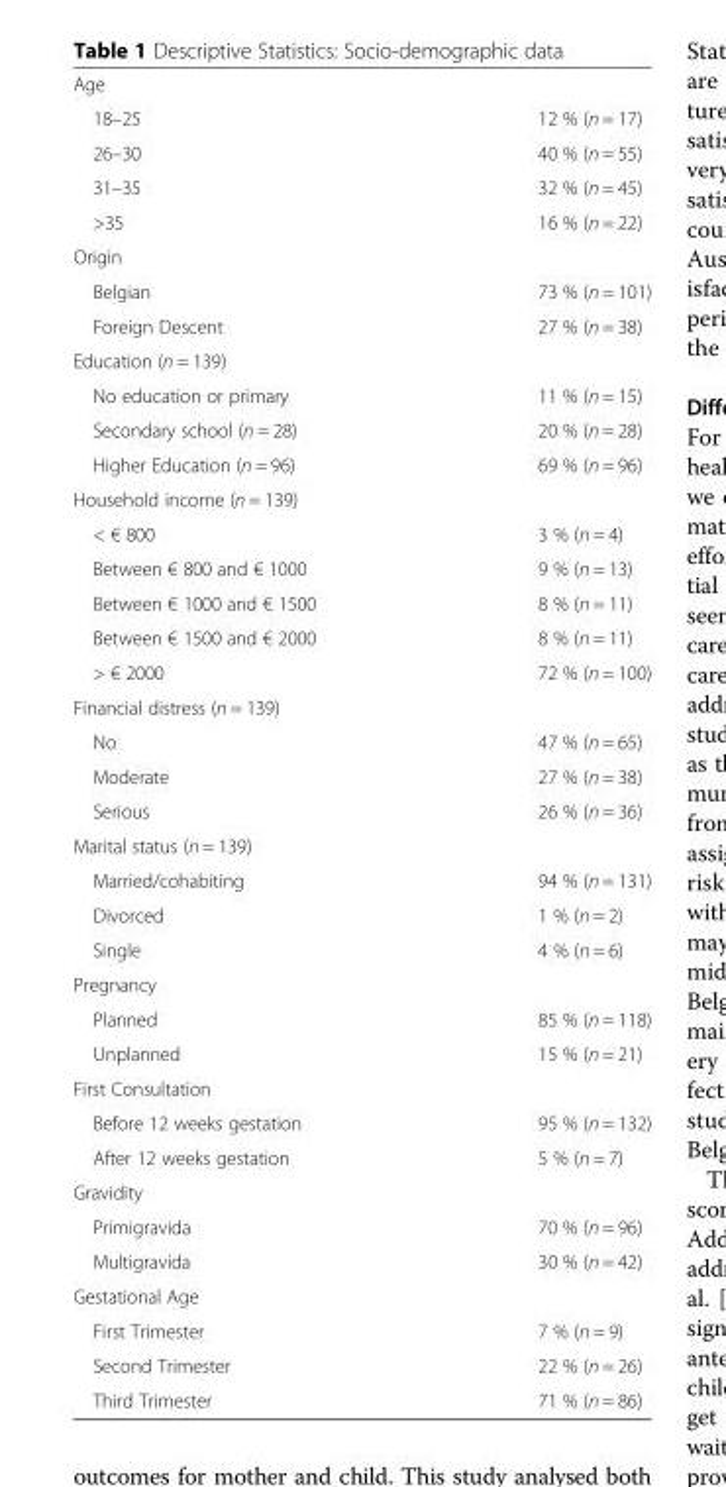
<table><tbody><tr><td colspan="2">Age</td></tr><tr><td>18–25</td><td>12 % (n = 17)</td></tr><tr><td>26–30</td><td>40 % (n = 55)</td></tr><tr><td>31–35</td><td>32 % (n = 45)</td></tr><tr><td>&gt;35</td><td>16 % (n = 22)</td></tr><tr><td colspan="2">Origin</td></tr><tr><td>Belgian</td><td>73 % (n = 101)</td></tr><tr><td>Foreign Descent</td><td>27 % (n = 38)</td></tr><tr><td colspan="2">Education (n = 139)</td></tr><tr><td>No education or primary</td><td>11 % (n = 15)</td></tr><tr><td>Secondary school (n = 28)</td><td>20 % (n = 28)</td></tr><tr><td>Higher Education (n = 96)</td><td>69 % (n = 96)</td></tr><tr><td colspan="2">Household income (n = 139)</td></tr><tr><td>&lt; € 800</td><td>3 % (n = 4)</td></tr><tr><td>Between € 800 and € 1000</td><td>9 % (n = 13)</td></tr><tr><td>Between € 1000 and € 1500</td><td>8 % (n = 11)</td></tr><tr><td>Between € 1500 and € 2000</td><td>8 % (n = 11)</td></tr><tr><td>&gt; € 2000</td><td>72 % (n = 100)</td></tr><tr><td colspan="2">Financial distress (n = 139)</td></tr><tr><td>No</td><td>47 % (n = 65)</td></tr><tr><td>Moderate</td><td>27 % (n = 38)</td></tr><tr><td>Serious</td><td>26 % (n = 36)</td></tr><tr><td colspan="2">Marital status (n = 139)</td></tr><tr><td>Married/cohabiting</td><td>94 % (n = 131)</td></tr><tr><td>Divorced</td><td>1 % (n = 2)</td></tr><tr><td>Single</td><td>4 % (n = 6)</td></tr><tr><td colspan="2">Pregnancy</td></tr><tr><td>Planned</td><td>85 % (n = 118)</td></tr><tr><td>Unplanned</td><td>15 % (n = 21)</td></tr><tr><td colspan="2">First Consultation</td></tr><tr><td>Before 12 weeks gestation</td><td>95 % (n = 132)</td></tr><tr><td>After 12 weeks gestation</td><td>5 % (n = 7)</td></tr><tr><td colspan="2">Gravidity</td></tr><tr><td>Primigravida</td><td>70 % (n = 96)</td></tr><tr><td>Multigravida</td><td>30 % (n = 42)</td></tr><tr><td colspan="2">Gestational Age</td></tr><tr><td>First Trimester</td><td>7 % (n = 9)</td></tr><tr><td>Second Trimester</td><td>22 % (n = 26)</td></tr><tr><td>Third Trimester</td><td>71 % (n = 86)</td></tr></tbody></table>